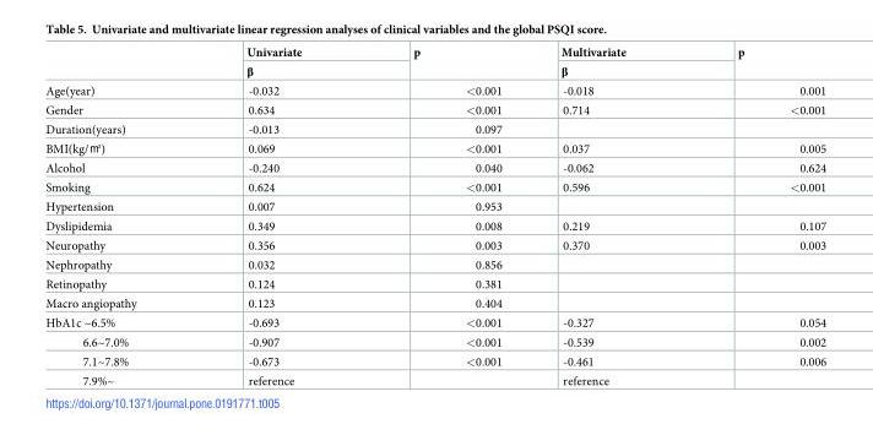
<table><thead><tr><td rowspan="2"></td><td rowspan="2">Univariate β</td><td rowspan="2">p</td><td rowspan="2">Multivariate β</td><td rowspan="2">p</td></tr><tr></tr></thead><tbody><tr><td>Age(year)</td><td>-0.032</td><td>&lt;0.001</td><td>-0.018</td><td>0.001</td></tr><tr><td>Gender</td><td>0.634</td><td>&lt;0.001</td><td>0.714</td><td>&lt;0.001</td></tr><tr><td>Duration(years)</td><td>-0.013</td><td>0.097</td><td></td><td></td></tr><tr><td>BMI(kg/㎡)</td><td>0.069</td><td>&lt;0.001</td><td>0.037</td><td>0.005</td></tr><tr><td>Alcohol</td><td>-0.240</td><td>0.040</td><td>-0.062</td><td>0.624</td></tr><tr><td>Smoking</td><td>0.624</td><td>&lt;0.001</td><td>0.596</td><td>&lt;0.001</td></tr><tr><td>Hypertension</td><td>0.007</td><td>0.953</td><td></td><td></td></tr><tr><td>Dyslipidemia</td><td>0.349</td><td>0.008</td><td>0.219</td><td>0.107</td></tr><tr><td>Neuropathy</td><td>0.356</td><td>0.003</td><td>0.370</td><td>0.003</td></tr><tr><td>Nephropathy</td><td>0.032</td><td>0.856</td><td></td><td></td></tr><tr><td>Retinopathy</td><td>0.124</td><td>0.381</td><td></td><td></td></tr><tr><td>Macro angiopathy</td><td>0.123</td><td>0.404</td><td></td><td></td></tr><tr><td>HbA1c ~6.5%</td><td>-0.693</td><td>&lt;0.001</td><td>-0.327</td><td>0.054</td></tr><tr><td>6.6~7.0%</td><td>-0.907</td><td>&lt;0.001</td><td>-0.539</td><td>0.002</td></tr><tr><td>7.1~7.8%</td><td>-0.673</td><td>&lt;0.001</td><td>-0.461</td><td>0.006</td></tr><tr><td>7.9%~</td><td>reference</td><td></td><td>reference</td><td></td></tr></tbody></table>